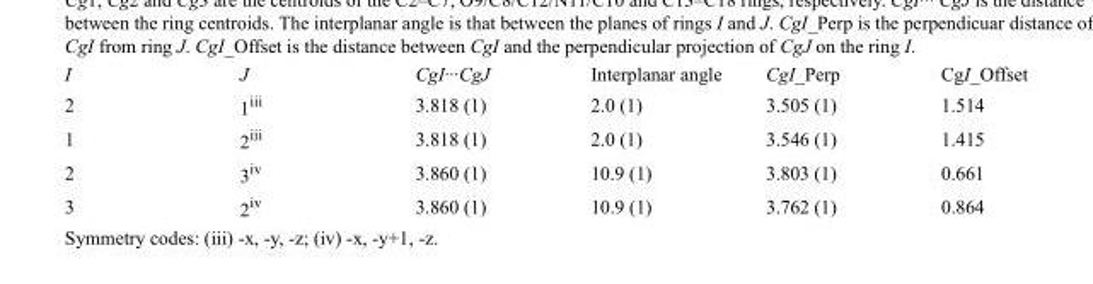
<table><tbody><tr><td>I</td><td>J</td><td>CgI···CgJ</td><td>Interplanar angle</td><td>CgI_Perp</td><td>CgI_Offset</td></tr><tr><td>2</td><td>1<sup>iii</sup></td><td>3.818 (1)</td><td>2.0 (1)</td><td>3.505 (1)</td><td>1.514</td></tr><tr><td>1</td><td>2<sup>iii</sup></td><td>3.818 (1)</td><td>2.0 (1)</td><td>3.546 (1)</td><td>1.415</td></tr><tr><td>2</td><td>3<sup>iv</sup></td><td>3.860 (1)</td><td>10.9 (1)</td><td>3.803 (1)</td><td>0.661</td></tr><tr><td>3</td><td>2<sup>iv</sup></td><td>3.860 (1)</td><td>10.9 (1)</td><td>3.762 (1)</td><td>0.864</td></tr></tbody></table>